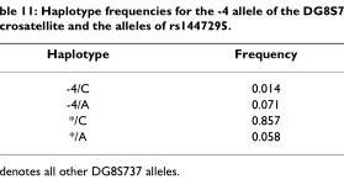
<table><thead><tr><td>Haplotype</td><td>Frequency</td></tr></thead><tbody><tr><td>-4/C</td><td>0.014</td></tr><tr><td>-4/A</td><td>0.071</td></tr><tr><td>*/C</td><td>0.857</td></tr><tr><td>*/A</td><td>0.058</td></tr></tbody></table>